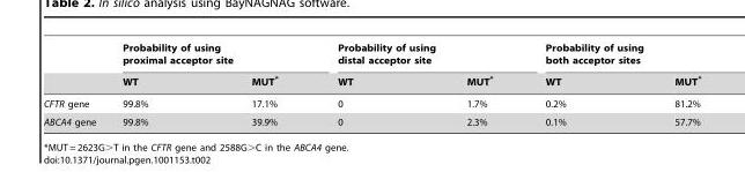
<table><thead><tr><td rowspan="2"></td><td colspan="2">Probability of using proximal acceptor site</td><td colspan="2">Probability of using distal acceptor site</td><td colspan="2">Probability of using both acceptor sites</td></tr><tr><td>WT</td><td>MUT*</td><td>WT</td><td>MUT*</td><td>WT</td><td>MUT*</td></tr></thead><tbody><tr><td>CFTR gene</td><td>99.8%</td><td>17.1%</td><td>0</td><td>1.7%</td><td>0.2%</td><td>81.2%</td></tr><tr><td>ABCA4 gene</td><td>99.8%</td><td>39.9%</td><td>0</td><td>2.3%</td><td>0.1%</td><td>57.7%</td></tr></tbody></table>